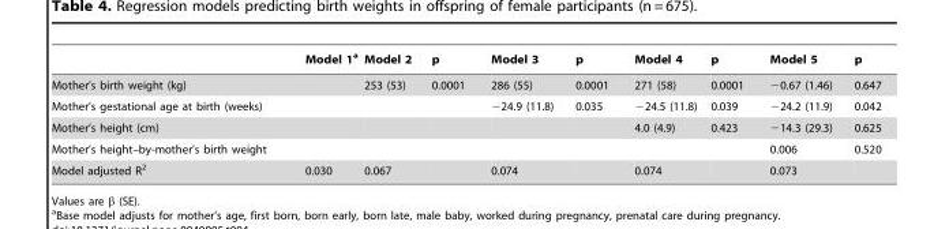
<table><thead><tr><td></td><td>Model 1<sup>a</sup></td><td>Model 2</td><td>p</td><td>Model 3</td><td>p</td><td>Model 4</td><td>p</td><td>Model 5</td><td>p</td></tr></thead><tbody><tr><td>Mother’s birth weight (kg)</td><td></td><td>253 (53)</td><td>0.0001</td><td>286 (55)</td><td>0.0001</td><td>271 (58)</td><td>0.0001</td><td>−0.67 (1.46)</td><td>0.647</td></tr><tr><td>Mother’s gestational age at birth (weeks)</td><td></td><td></td><td></td><td>−24.9 (11.8)</td><td>0.035</td><td>−24.5 (11.8)</td><td>0.039</td><td>−24.2 (11.9)</td><td>0.042</td></tr><tr><td>Mother’s height (cm)</td><td></td><td></td><td></td><td></td><td></td><td>4.0 (4.9)</td><td>0.423</td><td>−14.3 (29.3)</td><td>0.625</td></tr><tr><td>Mother’s height–by-mother’s birth weight</td><td></td><td></td><td></td><td></td><td></td><td></td><td></td><td>0.006</td><td>0.520</td></tr><tr><td>Model adjusted R<sup>2</sup></td><td>0.030</td><td>0.067</td><td></td><td>0.074</td><td></td><td>0.074</td><td></td><td>0.073</td><td></td></tr></tbody></table>